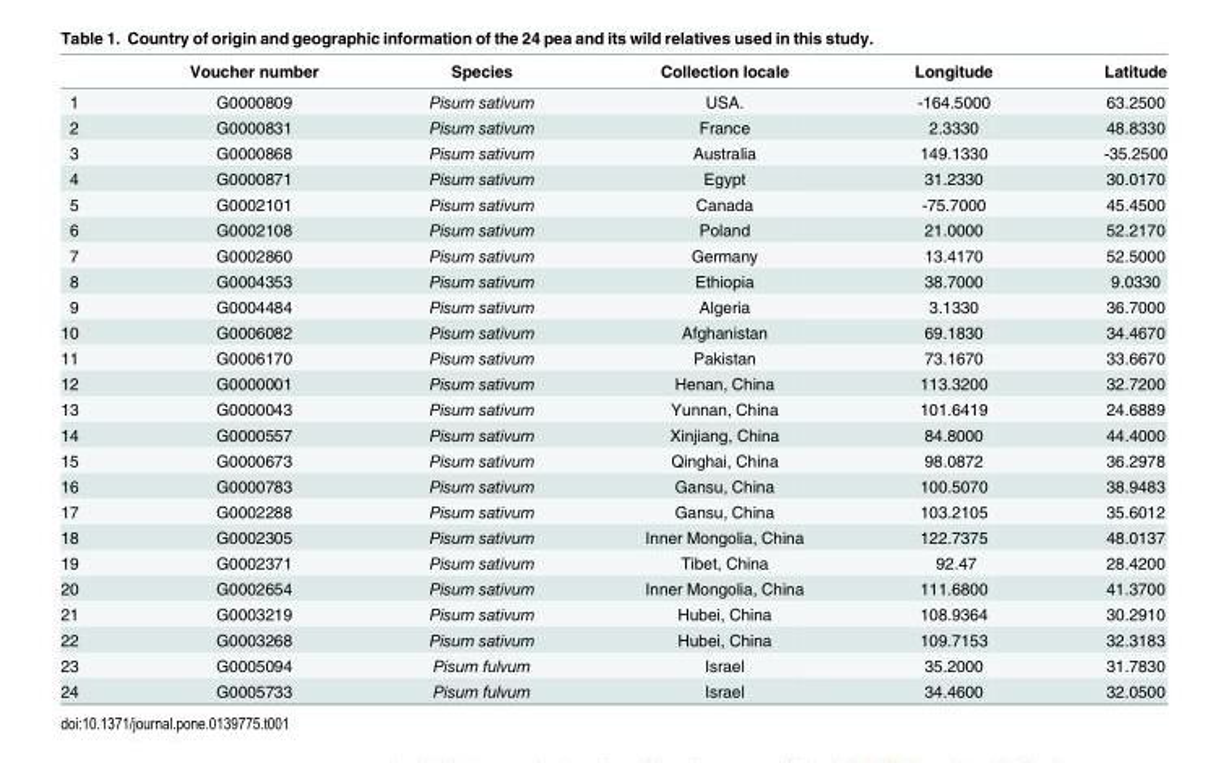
<table><thead><tr><td></td><td>Voucher number</td><td>Species</td><td>Collection locale</td><td>Longitude</td><td>Latitude</td></tr></thead><tbody><tr><td>1</td><td>G0000809</td><td>Pisum sativum</td><td>USA.</td><td>-164.5000</td><td>63.2500</td></tr><tr><td>2</td><td>G0000831</td><td>Pisum sativum</td><td>France</td><td>2.3330</td><td>48.8330</td></tr><tr><td>3</td><td>G0000868</td><td>Pisum sativum</td><td>Australia</td><td>149.1330</td><td>-35.2500</td></tr><tr><td>4</td><td>G0000871</td><td>Pisum sativum</td><td>Egypt</td><td>31.2330</td><td>30.0170</td></tr><tr><td>5</td><td>G0002101</td><td>Pisum sativum</td><td>Canada</td><td>-75.7000</td><td>45.4500</td></tr><tr><td>6</td><td>G0002108</td><td>Pisum sativum</td><td>Poland</td><td>21.0000</td><td>52.2170</td></tr><tr><td>7</td><td>G0002860</td><td>Pisum sativum</td><td>Germany</td><td>13.4170</td><td>52.5000</td></tr><tr><td>8</td><td>G0004353</td><td>Pisum sativum</td><td>Ethiopia</td><td>38.7000</td><td>9.0330</td></tr><tr><td>9</td><td>G0004484</td><td>Pisum sativum</td><td>Algeria</td><td>3.1330</td><td>36.7000</td></tr><tr><td>10</td><td>G0006082</td><td>Pisum sativum</td><td>Afghanistan</td><td>69.1830</td><td>34.4670</td></tr><tr><td>11</td><td>G0006170</td><td>Pisum sativum</td><td>Pakistan</td><td>73.1670</td><td>33.6670</td></tr><tr><td>12</td><td>G0000001</td><td>Pisum sativum</td><td>Henan, China</td><td>113.3200</td><td>32.7200</td></tr><tr><td>13</td><td>G0000043</td><td>Pisum sativum</td><td>Yunnan, China</td><td>101.6419</td><td>24.6889</td></tr><tr><td>14</td><td>G0000557</td><td>Pisum sativum</td><td>Xinjiang, China</td><td>84.8000</td><td>44.4000</td></tr><tr><td>15</td><td>G0000673</td><td>Pisum sativum</td><td>Qinghai, China</td><td>98.0872</td><td>36.2978</td></tr><tr><td>16</td><td>G0000783</td><td>Pisum sativum</td><td>Gansu, China</td><td>100.5070</td><td>38.9483</td></tr><tr><td>17</td><td>G0002288</td><td>Pisum sativum</td><td>Gansu, China</td><td>103.2105</td><td>35.6012</td></tr><tr><td>18</td><td>G0002305</td><td>Pisum sativum</td><td>Inner Mongolia, China</td><td>122.7375</td><td>48.0137</td></tr><tr><td>19</td><td>G0002371</td><td>Pisum sativum</td><td>Tibet, China</td><td>92.47</td><td>28.4200</td></tr><tr><td>20</td><td>G0002654</td><td>Pisum sativum</td><td>Inner Mongolia, China</td><td>111.6800</td><td>41.3700</td></tr><tr><td>21</td><td>G0003219</td><td>Pisum sativum</td><td>Hubei, China</td><td>108.9364</td><td>30.2910</td></tr><tr><td>22</td><td>G0003268</td><td>Pisum sativum</td><td>Hubei, China</td><td>109.7153</td><td>32.3183</td></tr><tr><td>23</td><td>G0005094</td><td>Pisum fulvum</td><td>Israel</td><td>35.2000</td><td>31.7830</td></tr><tr><td>24</td><td>G0005733</td><td>Pisum fulvum</td><td>Israel</td><td>34.4600</td><td>32.0500</td></tr></tbody></table>